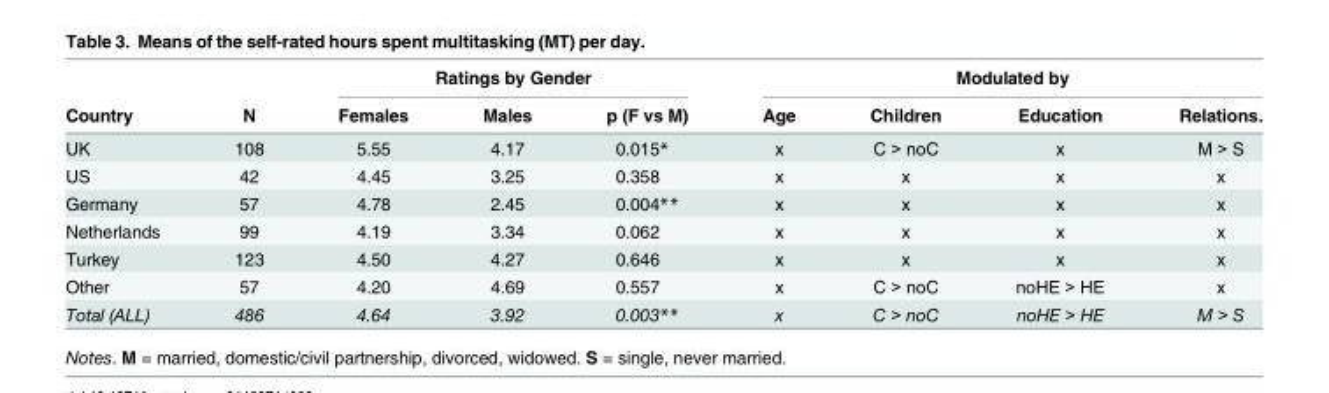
<table><thead><tr><td rowspan="2">Country</td><td rowspan="2">N</td><td colspan="3">Ratings by Gender</td><td colspan="4">Modulated by</td></tr><tr><td>Females</td><td>Males</td><td>p (F vs M)</td><td>Age</td><td>Children</td><td>Education</td><td>Relations.</td></tr></thead><tbody><tr><td>UK</td><td>108</td><td>5.55</td><td>4.17</td><td>0.015*</td><td>x</td><td>C &gt; noC</td><td>x</td><td>M &gt; S</td></tr><tr><td>US</td><td>42</td><td>4.45</td><td>3.25</td><td>0.358</td><td>x</td><td>x</td><td>x</td><td>x</td></tr><tr><td>Germany</td><td>57</td><td>4.78</td><td>2.45</td><td>0.004**</td><td>x</td><td>x</td><td>x</td><td>x</td></tr><tr><td>Netherlands</td><td>99</td><td>4.19</td><td>3.34</td><td>0.062</td><td>x</td><td>x</td><td>x</td><td>x</td></tr><tr><td>Turkey</td><td>123</td><td>4.50</td><td>4.27</td><td>0.646</td><td>x</td><td>x</td><td>x</td><td>x</td></tr><tr><td>Other</td><td>57</td><td>4.20</td><td>4.69</td><td>0.557</td><td>x</td><td>C &gt; noC</td><td>noHE &gt; HE</td><td>x</td></tr><tr><td>Total (ALL)</td><td>486</td><td>4.64</td><td>3.92</td><td>0.003**</td><td>x</td><td>C &gt; noC</td><td>noHE &gt; HE</td><td>M &gt; S</td></tr></tbody></table>